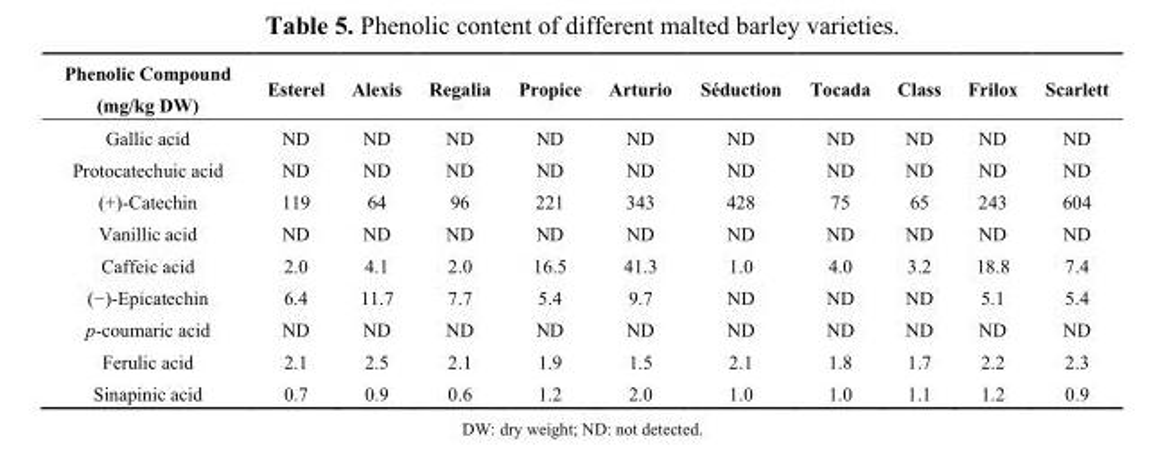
<table><thead><tr><td>Phenolic Compound (mg/kg DW)</td><td>Esterel</td><td>Alexis</td><td>Regalia</td><td>Propice</td><td>Arturio</td><td>Séduction</td><td>Tocada</td><td>Class</td><td>Frilox</td><td>Scarlett</td></tr></thead><tbody><tr><td>Gallic acid</td><td>ND</td><td>ND</td><td>ND</td><td>ND</td><td>ND</td><td>ND</td><td>ND</td><td>ND</td><td>ND</td><td>ND</td></tr><tr><td>Protocatechuic acid</td><td>ND</td><td>ND</td><td>ND</td><td>ND</td><td>ND</td><td>ND</td><td>ND</td><td>ND</td><td>ND</td><td>ND</td></tr><tr><td>(+)-Catechin</td><td>119</td><td>64</td><td>96</td><td>221</td><td>343</td><td>428</td><td>75</td><td>65</td><td>243</td><td>604</td></tr><tr><td>Vanillic acid</td><td>ND</td><td>ND</td><td>ND</td><td>ND</td><td>ND</td><td>ND</td><td>ND</td><td>ND</td><td>ND</td><td>ND</td></tr><tr><td>Caffeic acid</td><td>2.0</td><td>4.1</td><td>2.0</td><td>16.5</td><td>41.3</td><td>1.0</td><td>4.0</td><td>3.2</td><td>18.8</td><td>7.4</td></tr><tr><td>(−)-Epicatechin</td><td>6.4</td><td>11.7</td><td>7.7</td><td>5.4</td><td>9.7</td><td>ND</td><td>ND</td><td>ND</td><td>5.1</td><td>5.4</td></tr><tr><td>p-coumaric acid</td><td>ND</td><td>ND</td><td>ND</td><td>ND</td><td>ND</td><td>ND</td><td>ND</td><td>ND</td><td>ND</td><td>ND</td></tr><tr><td>Ferulic acid</td><td>2.1</td><td>2.5</td><td>2.1</td><td>1.9</td><td>1.5</td><td>2.1</td><td>1.8</td><td>1.7</td><td>2.2</td><td>2.3</td></tr><tr><td>Sinapinic acid</td><td>0.7</td><td>0.9</td><td>0.6</td><td>1.2</td><td>2.0</td><td>1.0</td><td>1.0</td><td>1.1</td><td>1.2</td><td>0.9</td></tr></tbody></table>